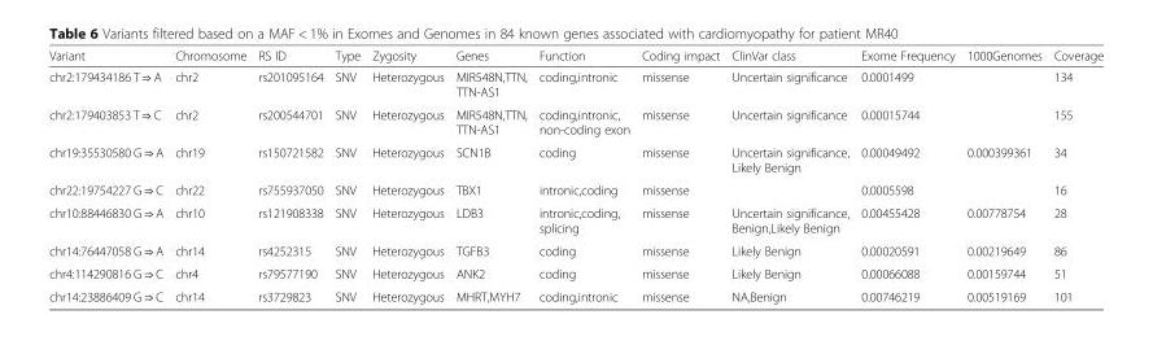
<table><thead><tr><td>Variant</td><td>Chromosome</td><td>RS ID</td><td>Type</td><td>Zygosity</td><td>Genes</td><td>Function</td><td>Coding impact</td><td>ClinVar class</td><td>Exome Frequency</td><td>1000Genomes</td><td>Coverage</td></tr></thead><tbody><tr><td>chr2:179434186 T ⇒ A</td><td>chr2</td><td>rs201095164</td><td>SNV</td><td>Heterozygous</td><td>MIR548N,TTN, TTN-AS1</td><td>coding,intronic</td><td>missense</td><td>Uncertain significance</td><td>0.0001499</td><td></td><td>134</td></tr><tr><td>chr2:179403853 T ⇒ C</td><td>chr2</td><td>rs200544701</td><td>SNV</td><td>Heterozygous</td><td>MIR548N,TTN, TTN-AS1</td><td>coding,intronic, non-coding exon</td><td>missense</td><td>Uncertain significance</td><td>0.00015744</td><td></td><td>155</td></tr><tr><td>chr19:35530580 G ⇒ A</td><td>chr19</td><td>rs150721582</td><td>SNV</td><td>Heterozygous</td><td>SCN1B</td><td>coding</td><td>missense</td><td>Uncertain significance, Likely Benign</td><td>0.00049492</td><td>0.000399361</td><td>34</td></tr><tr><td>chr22:19754227 G ⇒ C</td><td>chr22</td><td>rs755937050</td><td>SNV</td><td>Heterozygous</td><td>TBX1</td><td>intronic,coding</td><td>missense</td><td></td><td>0.0005598</td><td></td><td>16</td></tr><tr><td>chr10:88446830 G ⇒ A</td><td>chr10</td><td>rs121908338</td><td>SNV</td><td>Heterozygous</td><td>LDB3</td><td>intronic,coding, splicing</td><td>missense</td><td>Uncertain significance, Benign,Likely Benign</td><td>0.00455428</td><td>0.00778754</td><td>28</td></tr><tr><td>chr14:76447058 G ⇒ A</td><td>chr14</td><td>rs4252315</td><td>SNV</td><td>Heterozygous</td><td>TGFB3</td><td>coding</td><td>missense</td><td>Likely Benign</td><td>0.00020591</td><td>0.00219649</td><td>86</td></tr><tr><td>chr4:114290816 G ⇒ C</td><td>chr4</td><td>rs79577190</td><td>SNV</td><td>Heterozygous</td><td>ANK2</td><td>coding</td><td>missense</td><td>Likely Benign</td><td>0.00066088</td><td>0.00159744</td><td>51</td></tr><tr><td>chr14:23886409 G ⇒ C</td><td>chr14</td><td>rs3729823</td><td>SNV</td><td>Heterozygous</td><td>MHRT,MYH7</td><td>coding,intronic</td><td>missense</td><td>NA,Benign</td><td>0.00746219</td><td>0.00519169</td><td>101</td></tr></tbody></table>